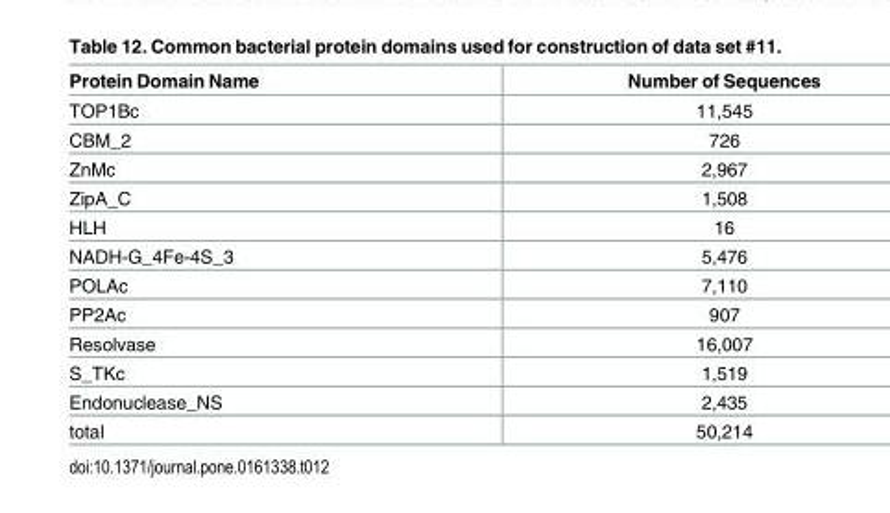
<table><thead><tr><td>Protein Domain Name</td><td>Number of Sequences</td></tr></thead><tbody><tr><td>TOP1Bc</td><td>11,545</td></tr><tr><td>CBM_2</td><td>726</td></tr><tr><td>ZnMc</td><td>2,967</td></tr><tr><td>ZipA_C</td><td>1,508</td></tr><tr><td>HLH</td><td>16</td></tr><tr><td>NADH-G_4Fe-4S_3</td><td>5,476</td></tr><tr><td>POLAc</td><td>7,110</td></tr><tr><td>PP2Ac</td><td>907</td></tr><tr><td>Resolvase</td><td>16,007</td></tr><tr><td>S_TKc</td><td>1,519</td></tr><tr><td>Endonuclease_NS</td><td>2,435</td></tr><tr><td>total</td><td>50,214</td></tr></tbody></table>